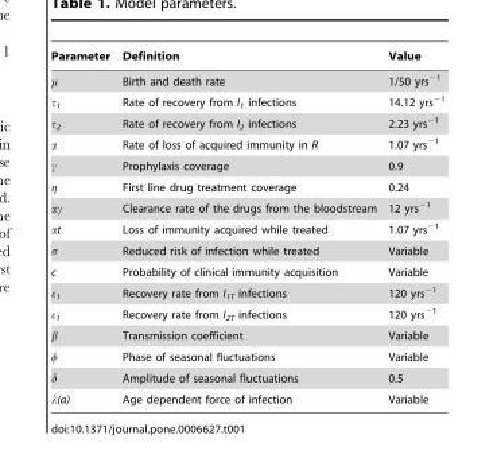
<table><thead><tr><td>Parameter</td><td>Definition</td><td>Value</td></tr></thead><tbody><tr><td>μ</td><td>Birth and death rate</td><td>1/50 yrs<sup>−1</sup></td></tr><tr><td>τ<sub>1</sub></td><td>Rate of recovery from I<sub>1</sub> infections</td><td>14.12 yrs<sup>−1</sup></td></tr><tr><td>τ<sub>2</sub></td><td>Rate of recovery from I<sub>2</sub> infections</td><td>2.23 yrs<sup>−1</sup></td></tr><tr><td>α</td><td>Rate of loss of acquired immunity in R</td><td>1.07 yrs<sup>−1</sup></td></tr><tr><td>γ</td><td>Prophylaxis coverage</td><td>0.9</td></tr><tr><td>η</td><td>First line drug treatment coverage</td><td>0.24</td></tr><tr><td>αγ</td><td>Clearance rate of the drugs from the bloodstream</td><td>12 yrs<sup>−1</sup></td></tr><tr><td>αt</td><td>Loss of immunity acquired while treated</td><td>1.07 yrs<sup>−1</sup></td></tr><tr><td>σ</td><td>Reduced risk of infection while treated</td><td>Variable</td></tr><tr><td>c</td><td>Probability of clinical immunity acquisition</td><td>Variable</td></tr><tr><td>ε<sub>1</sub></td><td>Recovery rate from I<sub>1T</sub> infections</td><td>120 yrs<sup>−1</sup></td></tr><tr><td>ε<sub>1</sub></td><td>Recovery rate from I<sub>2T</sub> infections</td><td>120 yrs<sup>−1</sup></td></tr><tr><td>β</td><td>Transmission coefficient</td><td>Variable</td></tr><tr><td>φ</td><td>Phase of seasonal fluctuations</td><td>Variable</td></tr><tr><td>δ</td><td>Amplitude of seasonal fluctuations</td><td>0.5</td></tr><tr><td>λ(a)</td><td>Age dependent force of infection</td><td>Variable</td></tr></tbody></table>